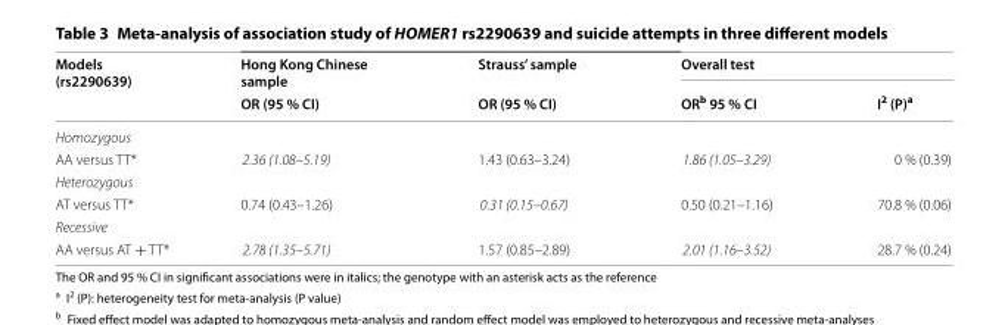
<table><thead><tr><td rowspan="2">Models (rs2290639)</td><td rowspan="2">Hong Kong Chinese sample OR (95 % CI)</td><td rowspan="2">Strauss’ sample OR (95 % CI)</td><td colspan="2">Overall test</td></tr><tr><td>OR<sup>b</sup> 95 % CI</td><td>I<sup>2</sup> (P)<sup>a</sup></td></tr></thead><tbody><tr><td colspan="5">Homozygous</td></tr><tr><td>AA versus TT*</td><td>2.36 (1.08–5.19)</td><td>1.43 (0.63–3.24)</td><td>1.86 (1.05–3.29)</td><td>0 % (0.39)</td></tr><tr><td colspan="5">Heterozygous</td></tr><tr><td>AT versus TT*</td><td>0.74 (0.43–1.26)</td><td>0.31 (0.15–0.67)</td><td>0.50 (0.21–1.16)</td><td>70.8 % (0.06)</td></tr><tr><td colspan="5">Recessive</td></tr><tr><td>AA versus AT + TT*</td><td>2.78 (1.35–5.71)</td><td>1.57 (0.85–2.89)</td><td>2.01 (1.16–3.52)</td><td>28.7 % (0.24)</td></tr></tbody></table>